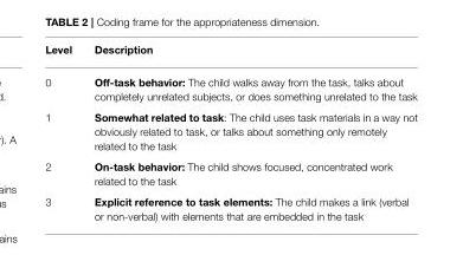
<table><thead><tr><td>Level</td><td>Description</td></tr></thead><tbody><tr><td>0</td><td>Off-task behavior: The child walks away from the task, talks about completely unrelated subjects, or does something unrelated to the task</td></tr><tr><td>1</td><td>Somewhat related to task: The child uses task materials in a way not obviously related to task, or talks about something only remotely related to the task</td></tr><tr><td>2</td><td>On-task behavior: The child shows focused, concentrated work related to the task</td></tr><tr><td>3</td><td>Explicit reference to task elements: The child makes a link (verbal or non-verbal) with elements that are embedded in the task</td></tr></tbody></table>